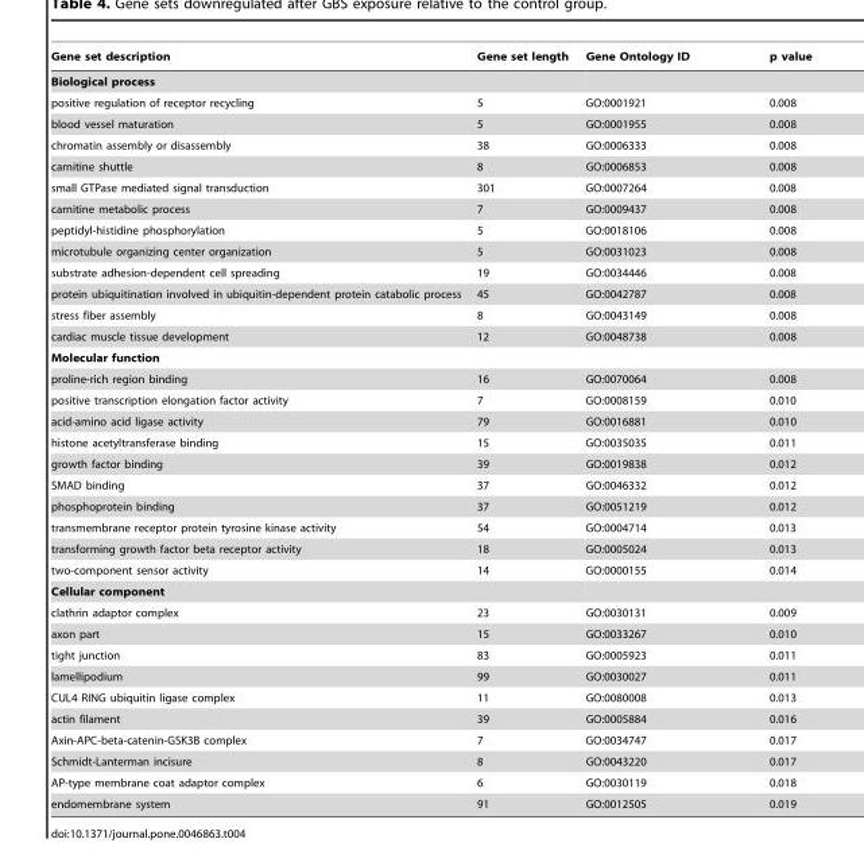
<table><thead><tr><td>Gene set description</td><td>Gene set length</td><td>Gene Ontology ID</td><td>p value</td></tr></thead><tbody><tr><td colspan="4">Biological process</td></tr><tr><td>positive regulation of receptor recycling</td><td>5</td><td>GO:0001921</td><td>0.008</td></tr><tr><td>blood vessel maturation</td><td>5</td><td>GO:0001955</td><td>0.008</td></tr><tr><td>chromatin assembly or disassembly</td><td>38</td><td>GO:0006333</td><td>0.008</td></tr><tr><td>carnitine shuttle</td><td>8</td><td>GO:0006853</td><td>0.008</td></tr><tr><td>small GTPase mediated signal transduction</td><td>301</td><td>GO:0007264</td><td>0.008</td></tr><tr><td>carnitine metabolic process</td><td>7</td><td>GO:0009437</td><td>0.008</td></tr><tr><td>peptidyl-histidine phosphorylation</td><td>5</td><td>GO:0018106</td><td>0.008</td></tr><tr><td>microtubule organizing center organization</td><td>5</td><td>GO:0031023</td><td>0.008</td></tr><tr><td>substrate adhesion-dependent cell spreading</td><td>19</td><td>GO:0034446</td><td>0.008</td></tr><tr><td>protein ubiquitination involved in ubiquitin-dependent protein catabolic process</td><td>45</td><td>GO:0042787</td><td>0.008</td></tr><tr><td>stress fiber assembly</td><td>8</td><td>GO:0043149</td><td>0.008</td></tr><tr><td>cardiac muscle tissue development</td><td>12</td><td>GO:0048738</td><td>0.008</td></tr><tr><td colspan="4">Molecular function</td></tr><tr><td>proline-rich region binding</td><td>16</td><td>GO:0070064</td><td>0.008</td></tr><tr><td>positive transcription elongation factor activity</td><td>7</td><td>GO:0008159</td><td>0.010</td></tr><tr><td>acid-amino acid ligase activity</td><td>79</td><td>GO:0016881</td><td>0.010</td></tr><tr><td>histone acetyltransferase binding</td><td>15</td><td>GO:0035035</td><td>0.011</td></tr><tr><td>growth factor binding</td><td>39</td><td>GO:0019838</td><td>0.012</td></tr><tr><td>SMAD binding</td><td>37</td><td>GO:0046332</td><td>0.012</td></tr><tr><td>phosphoprotein binding</td><td>37</td><td>GO:0051219</td><td>0.012</td></tr><tr><td>transmembrane receptor protein tyrosine kinase activity</td><td>54</td><td>GO:0004714</td><td>0.013</td></tr><tr><td>transforming growth factor beta receptor activity</td><td>18</td><td>GO:0005024</td><td>0.013</td></tr><tr><td>two-component sensor activity</td><td>14</td><td>GO:0000155</td><td>0.014</td></tr><tr><td colspan="4">Cellular component</td></tr><tr><td>clathrin adaptor complex</td><td>23</td><td>GO:0030131</td><td>0.009</td></tr><tr><td>axon part</td><td>15</td><td>GO:0033267</td><td>0.010</td></tr><tr><td>tight junction</td><td>83</td><td>GO:0005923</td><td>0.011</td></tr><tr><td>lamellipodium</td><td>99</td><td>GO:0030027</td><td>0.011</td></tr><tr><td>CUL4 RING ubiquitin ligase complex</td><td>11</td><td>GO:0080008</td><td>0.013</td></tr><tr><td>actin filament</td><td>39</td><td>GO:0005884</td><td>0.016</td></tr><tr><td>Axin-APC-beta-catenin-GSK3B complex</td><td>7</td><td>GO:0034747</td><td>0.017</td></tr><tr><td>Schmidt-Lanterman incisure</td><td>8</td><td>GO:0043220</td><td>0.017</td></tr><tr><td>AP-type membrane coat adaptor complex</td><td>6</td><td>GO:0030119</td><td>0.018</td></tr><tr><td>endomembrane system</td><td>91</td><td>GO:0012505</td><td>0.019</td></tr></tbody></table>